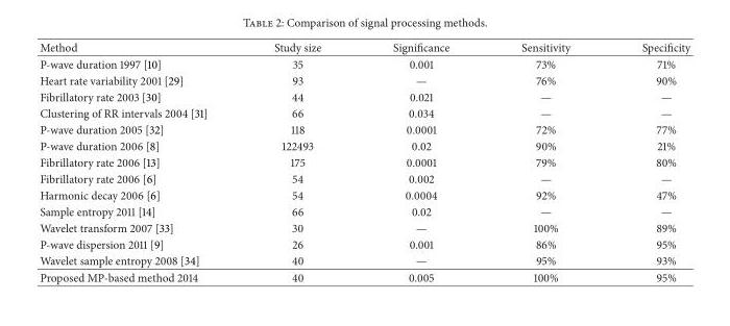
<table><thead><tr><td>Method</td><td>Study size</td><td>Significance</td><td>Sensitivity</td><td>Specificity</td></tr></thead><tbody><tr><td>P-wave duration 1997 [10]</td><td>35</td><td>0.001</td><td>73%</td><td>71%</td></tr><tr><td>Heart rate variability 2001 [29]</td><td>93</td><td>—</td><td>76%</td><td>90%</td></tr><tr><td>Fibrillatory rate 2003 [30]</td><td>44</td><td>0.021</td><td>—</td><td>—</td></tr><tr><td>Clustering of RR intervals 2004 [31]</td><td>66</td><td>0.034</td><td>—</td><td>—</td></tr><tr><td>P-wave duration 2005 [32]</td><td>118</td><td>0.0001</td><td>72%</td><td>77%</td></tr><tr><td>P-wave duration 2006 [8]</td><td>122493</td><td>0.02</td><td>90%</td><td>21%</td></tr><tr><td>Fibrillatory rate 2006 [13]</td><td>175</td><td>0.0001</td><td>79%</td><td>80%</td></tr><tr><td>Fibrillatory rate 2006 [6]</td><td>54</td><td>0.002</td><td>—</td><td>—</td></tr><tr><td>Harmonic decay 2006 [6]</td><td>54</td><td>0.0004</td><td>92%</td><td>47%</td></tr><tr><td>Sample entropy 2011 [14]</td><td>66</td><td>0.02</td><td>—</td><td>—</td></tr><tr><td>Wavelet transform 2007 [33]</td><td>30</td><td>—</td><td>100%</td><td>89%</td></tr><tr><td>P-wave dispersion 2011 [9]</td><td>26</td><td>0.001</td><td>86%</td><td>95%</td></tr><tr><td>Wavelet sample entropy 2008 [34]</td><td>40</td><td>—</td><td>95%</td><td>93%</td></tr><tr><td>Proposed MP-based method 2014</td><td>40</td><td>0.005</td><td>100%</td><td>95%</td></tr></tbody></table>